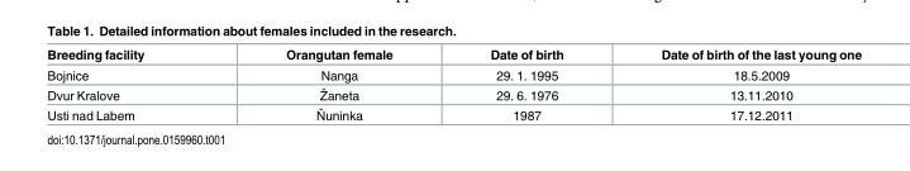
<table><thead><tr><td>Breeding facility</td><td>Orangutan female</td><td>Date of birth</td><td>Date of birth of the last young one</td></tr></thead><tbody><tr><td>Bojnice</td><td>Nanga</td><td>29. 1. 1995</td><td>18.5.2009</td></tr><tr><td>Dvur Kralove</td><td>Žaneta</td><td>29. 6. 1976</td><td>13.11.2010</td></tr><tr><td>Usti nad Labem</td><td>Ňuninka</td><td>1987</td><td>17.12.2011</td></tr></tbody></table>